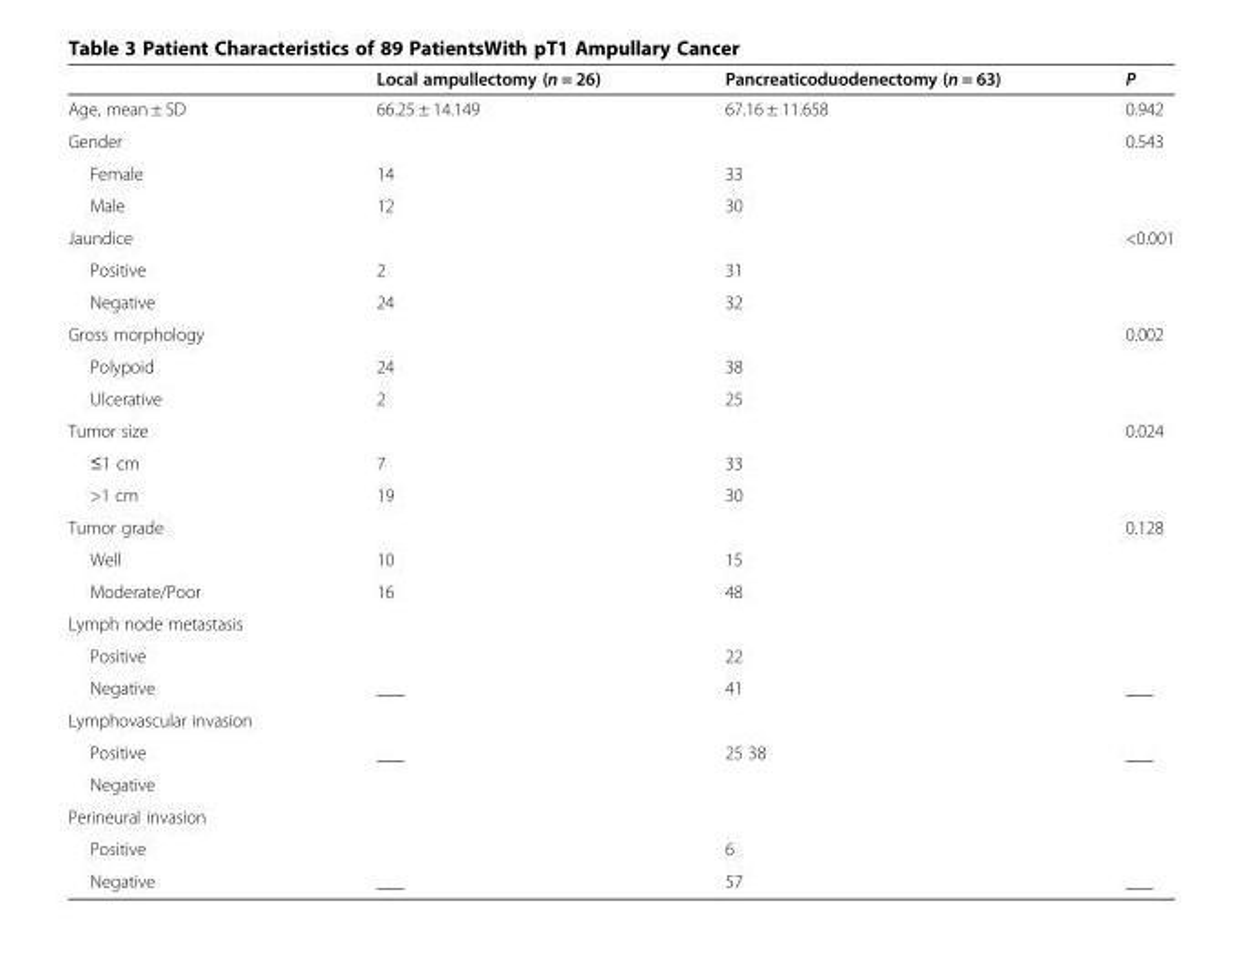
<table><thead><tr><td></td><td>Local ampullectomy (n = 26)</td><td>Pancreaticoduodenectomy (n = 63)</td><td>P</td></tr></thead><tbody><tr><td>Age, mean ± SD</td><td>66.25 ± 14.149</td><td>67.16 ± 11.658</td><td>0.942</td></tr><tr><td>Gender</td><td></td><td></td><td>0.543</td></tr><tr><td>Female</td><td>14</td><td>33</td><td></td></tr><tr><td>Male</td><td>12</td><td>30</td><td></td></tr><tr><td>Jaundice</td><td></td><td></td><td>&lt;0.001</td></tr><tr><td>Positive</td><td>2</td><td>31</td><td></td></tr><tr><td>Negative</td><td>24</td><td>32</td><td></td></tr><tr><td>Gross morphology</td><td></td><td></td><td>0.002</td></tr><tr><td>Polypoid</td><td>24</td><td>38</td><td></td></tr><tr><td>Ulcerative</td><td>2</td><td>25</td><td></td></tr><tr><td>Tumor size</td><td></td><td></td><td>0.024</td></tr><tr><td>≤1 cm</td><td>7</td><td>33</td><td></td></tr><tr><td>&gt;1 cm</td><td>19</td><td>30</td><td></td></tr><tr><td>Tumor grade</td><td></td><td></td><td>0.128</td></tr><tr><td>Well</td><td>10</td><td>15</td><td></td></tr><tr><td>Moderate/Poor</td><td>16</td><td>48</td><td></td></tr><tr><td colspan="4">Lymph node metastasis</td></tr><tr><td>Positive</td><td></td><td>22</td><td></td></tr><tr><td>Negative</td><td>___</td><td>41</td><td>___</td></tr><tr><td colspan="4">Lymphovascular invasion</td></tr><tr><td>Positive</td><td>___</td><td>25 38</td><td>___</td></tr><tr><td colspan="4">Negative</td></tr><tr><td colspan="4">Perineural invasion</td></tr><tr><td>Positive</td><td></td><td>6</td><td></td></tr><tr><td>Negative</td><td>___</td><td>57</td><td>___</td></tr></tbody></table>